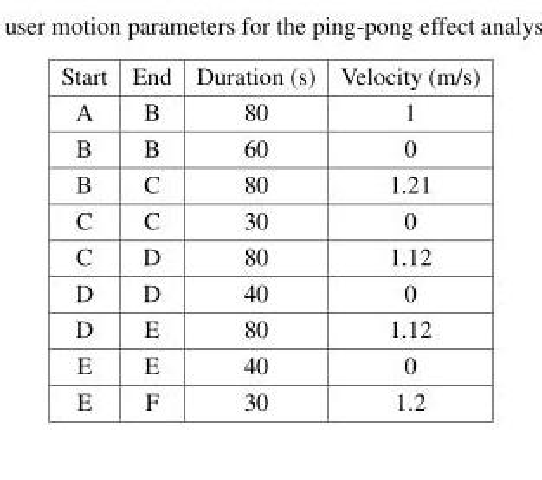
<table><thead><tr><td>Start</td><td>End</td><td>Duration (s)</td><td>Velocity (m/s)</td></tr></thead><tbody><tr><td>A</td><td>B</td><td>80</td><td>1</td></tr><tr><td>B</td><td>B</td><td>60</td><td>0</td></tr><tr><td>B</td><td>C</td><td>80</td><td>1.21</td></tr><tr><td>C</td><td>C</td><td>30</td><td>0</td></tr><tr><td>C</td><td>D</td><td>80</td><td>1.12</td></tr><tr><td>D</td><td>D</td><td>40</td><td>0</td></tr><tr><td>D</td><td>E</td><td>80</td><td>1.12</td></tr><tr><td>E</td><td>E</td><td>40</td><td>0</td></tr><tr><td>E</td><td>F</td><td>30</td><td>1.2</td></tr></tbody></table>